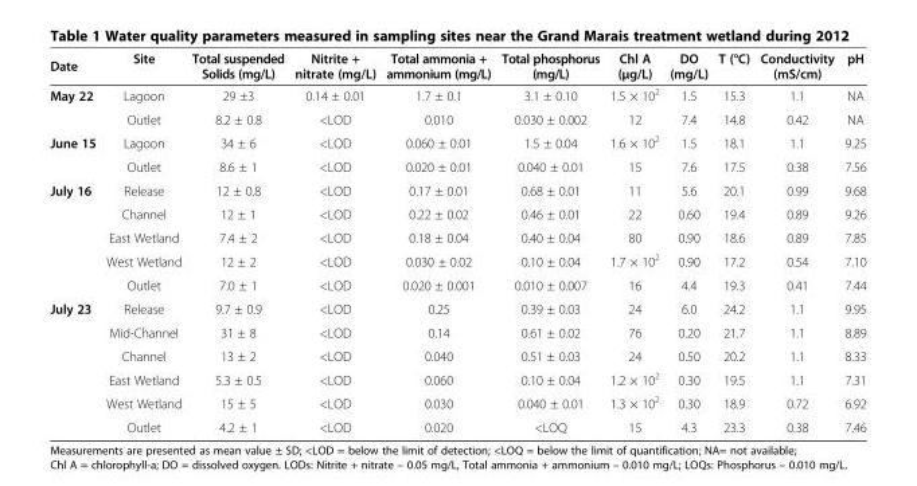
<table><thead><tr><td>Date</td><td>Site</td><td>Total suspended Solids (mg/L)</td><td>Nitrite + nitrate (mg/L)</td><td>Total ammonia + ammonium (mg/L)</td><td>Total phosphorus (mg/L)</td><td>Chl A (μg/L)</td><td>DO (mg/L)</td><td>T (°C)</td><td>Conductivity (mS/cm)</td><td>pH</td></tr></thead><tbody><tr><td rowspan="2">May 22</td><td>Lagoon</td><td>29 ±3</td><td>0.14 ± 0.01</td><td>1.7 ± 0.1</td><td>3.1 ± 0.10</td><td>1.5 × 10<sup>2</sup></td><td>1.5</td><td>15.3</td><td>1.1</td><td>NA</td></tr><tr><td>Outlet</td><td>8.2 ± 0.8</td><td>&lt;LOD</td><td>0.010</td><td>0.030 ± 0.002</td><td>12</td><td>7.4</td><td>14.8</td><td>0.42</td><td>NA</td></tr><tr><td rowspan="2">June 15</td><td>Lagoon</td><td>34 ± 6</td><td>&lt;LOD</td><td>0.060 ± 0.01</td><td>1.5 ± 0.04</td><td>1.6 × 10<sup>2</sup></td><td>1.5</td><td>18.1</td><td>1.1</td><td>9.25</td></tr><tr><td>Outlet</td><td>8.6 ± 1</td><td>&lt;LOD</td><td>0.020 ± 0.01</td><td>0.040 ± 0.01</td><td>15</td><td>7.6</td><td>17.5</td><td>0.38</td><td>7.56</td></tr><tr><td rowspan="5">July 16</td><td>Release</td><td>12 ± 0.8</td><td>&lt;LOD</td><td>0.17 ± 0.01</td><td>0.68 ± 0.01</td><td>11</td><td>5.6</td><td>20.1</td><td>0.99</td><td>9.68</td></tr><tr><td>Channel</td><td>12 ± 1</td><td>&lt;LOD</td><td>0.22 ± 0.02</td><td>0.46 ± 0.01</td><td>22</td><td>0.60</td><td>19.4</td><td>0.89</td><td>9.26</td></tr><tr><td>East Wetland</td><td>7.4 ± 2</td><td>&lt;LOD</td><td>0.18 ± 0.04</td><td>0.40 ± 0.04</td><td>80</td><td>0.90</td><td>18.6</td><td>0.89</td><td>7.85</td></tr><tr><td>West Wetland</td><td>12 ± 2</td><td>&lt;LOD</td><td>0.030 ± 0.02</td><td>0.10 ± 0.04</td><td>1.7 × 10<sup>2</sup></td><td>0.90</td><td>17.2</td><td>0.54</td><td>7.10</td></tr><tr><td>Outlet</td><td>7.0 ± 1</td><td>&lt;LOD</td><td>0.020 ± 0.001</td><td>0.010 ± 0.007</td><td>16</td><td>4.4</td><td>19.3</td><td>0.41</td><td>7.44</td></tr><tr><td rowspan="6">July 23</td><td>Release</td><td>9.7 ± 0.9</td><td>&lt;LOD</td><td>0.25</td><td>0.39 ± 0.03</td><td>24</td><td>6.0</td><td>24.2</td><td>1.1</td><td>9.95</td></tr><tr><td>Mid-Channel</td><td>31 ± 8</td><td>&lt;LOD</td><td>0.14</td><td>0.61 ± 0.02</td><td>76</td><td>0.20</td><td>21.7</td><td>1.1</td><td>8.89</td></tr><tr><td>Channel</td><td>13 ± 2</td><td>&lt;LOD</td><td>0.040</td><td>0.51 ± 0.03</td><td>24</td><td>0.50</td><td>20.2</td><td>1.1</td><td>8.33</td></tr><tr><td>East Wetland</td><td>5.3 ± 0.5</td><td>&lt;LOD</td><td>0.060</td><td>0.10 ± 0.04</td><td>1.2 × 10<sup>2</sup></td><td>0.30</td><td>19.5</td><td>1.1</td><td>7.31</td></tr><tr><td>West Wetland</td><td>15 ± 5</td><td>&lt;LOD</td><td>0.030</td><td>0.040 ± 0.01</td><td>1.3 × 10<sup>2</sup></td><td>0.30</td><td>18.9</td><td>0.72</td><td>6.92</td></tr><tr><td>Outlet</td><td>4.2 ± 1</td><td>&lt;LOD</td><td>0.020</td><td>&lt;LOQ</td><td>15</td><td>4.3</td><td>23.3</td><td>0.38</td><td>7.46</td></tr></tbody></table>